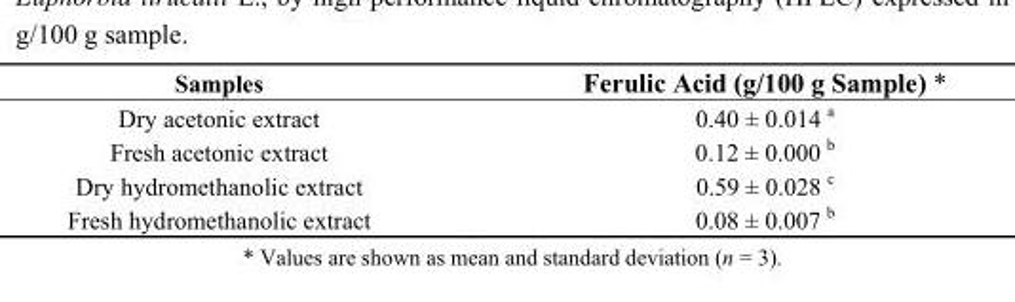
<table><thead><tr><td>Samples</td><td>Ferulic Acid (g/100 g Sample) *</td></tr></thead><tbody><tr><td>Dry acetonic extract</td><td>0.40 ± 0.014 <sup>a</sup></td></tr><tr><td>Fresh acetonic extract</td><td>0.12 ± 0.000 <sup>b</sup></td></tr><tr><td>Dry hydromethanolic extract</td><td>0.59 ± 0.028 <sup>c</sup></td></tr><tr><td>Fresh hydromethanolic extract</td><td>0.08 ± 0.007 <sup>b</sup></td></tr></tbody></table>